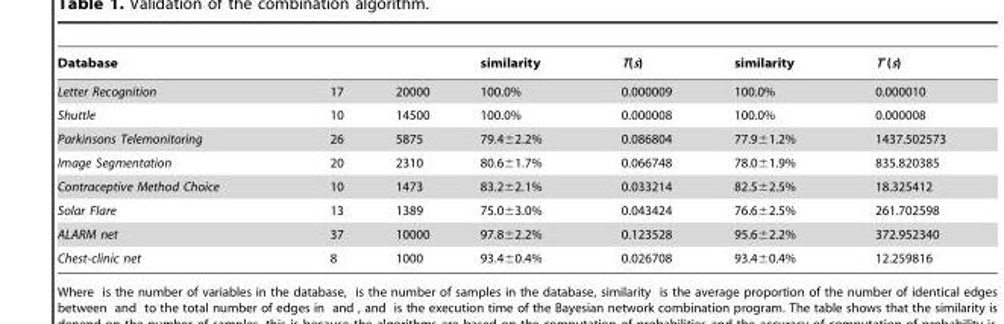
<table><thead><tr><td>Database</td><td></td><td></td><td>similarity</td><td>T(s)</td><td>similarity</td><td>T′(s)</td></tr></thead><tbody><tr><td>Letter Recognition</td><td>17</td><td>20000</td><td>100.0%</td><td>0.000009</td><td>100.0%</td><td>0.000010</td></tr><tr><td>Shuttle</td><td>10</td><td>14500</td><td>100.0%</td><td>0.000008</td><td>100.0%</td><td>0.000008</td></tr><tr><td>Parkinsons Telemonitoring</td><td>26</td><td>5875</td><td>79.4±2.2%</td><td>0.086804</td><td>77.9±1.2%</td><td>1437.502573</td></tr><tr><td>Image Segmentation</td><td>20</td><td>2310</td><td>80.6±1.7%</td><td>0.066748</td><td>78.0±1.9%</td><td>835.820385</td></tr><tr><td>Contraceptive Method Choice</td><td>10</td><td>1473</td><td>83.2±2.1%</td><td>0.033214</td><td>82.5±2.5%</td><td>18.325412</td></tr><tr><td>Solar Flare</td><td>13</td><td>1389</td><td>75.0±3.0%</td><td>0.043424</td><td>76.6±2.5%</td><td>261.702598</td></tr><tr><td>ALARM net</td><td>37</td><td>10000</td><td>97.8±2.2%</td><td>0.123528</td><td>95.6±2.2%</td><td>372.952340</td></tr><tr><td>Chest-clinic net</td><td>8</td><td>1000</td><td>93.4±0.4%</td><td>0.026708</td><td>93.4±0.4%</td><td>12.259816</td></tr></tbody></table>